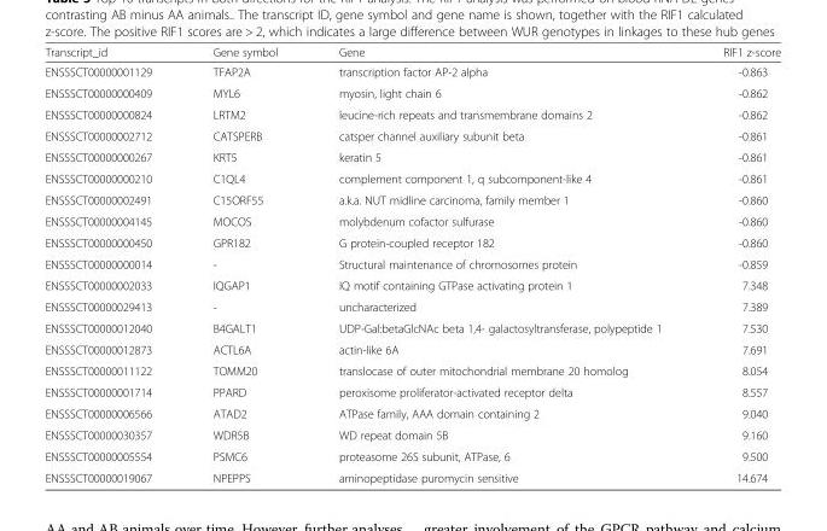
<table><thead><tr><td>Transcript_id</td><td>Gene symbol</td><td>Gene</td><td>RIF1 z-score</td></tr></thead><tbody><tr><td>ENSSSCT00000001129</td><td>TFAP2A</td><td>transcription factor AP-2 alpha</td><td>-0.863</td></tr><tr><td>ENSSSCT00000000409</td><td>MYL6</td><td>myosin, light chain 6</td><td>-0.862</td></tr><tr><td>ENSSSCT00000000824</td><td>LRTM2</td><td>leucine-rich repeats and transmembrane domains 2</td><td>-0.862</td></tr><tr><td>ENSSSCT00000002712</td><td>CATSPERB</td><td>catsper channel auxiliary subunit beta</td><td>-0.861</td></tr><tr><td>ENSSSCT00000000267</td><td>KRT5</td><td>keratin 5</td><td>-0.861</td></tr><tr><td>ENSSSCT00000000210</td><td>C1QL4</td><td>complement component 1, q subcomponent-like 4</td><td>-0.861</td></tr><tr><td>ENSSSCT00000002491</td><td>C15ORF55</td><td>a.k.a. NUT midline carcinoma, family member 1</td><td>-0.860</td></tr><tr><td>ENSSSCT00000004145</td><td>MOCOS</td><td>molybdenum cofactor sulfurase</td><td>-0.860</td></tr><tr><td>ENSSSCT00000000450</td><td>GPR182</td><td>G protein-coupled receptor 182</td><td>-0.860</td></tr><tr><td>ENSSSCT00000000014</td><td>-</td><td>Structural maintenance of chromosomes protein</td><td>-0.859</td></tr><tr><td>ENSSSCT00000002033</td><td>IQGAP1</td><td>IQ motif containing GTPase activating protein 1</td><td>7.348</td></tr><tr><td>ENSSSCT00000029413</td><td>-</td><td>uncharacterized</td><td>7.389</td></tr><tr><td>ENSSSCT00000012040</td><td>B4GALT1</td><td>UDP-Gal:betaGlcNAc beta 1,4- galactosyltransferase, polypeptide 1</td><td>7.530</td></tr><tr><td>ENSSSCT00000012873</td><td>ACTL6A</td><td>actin-like 6A</td><td>7.691</td></tr><tr><td>ENSSSCT00000011122</td><td>TOMM20</td><td>translocase of outer mitochondrial membrane 20 homolog</td><td>8.054</td></tr><tr><td>ENSSSCT00000001714</td><td>PPARD</td><td>peroxisome proliferator-activated receptor delta</td><td>8.557</td></tr><tr><td>ENSSSCT00000006566</td><td>ATAD2</td><td>ATPase family, AAA domain containing 2</td><td>9.040</td></tr><tr><td>ENSSSCT00000030357</td><td>WDR5B</td><td>WD repeat domain 5B</td><td>9.160</td></tr><tr><td>ENSSSCT00000005554</td><td>PSMC6</td><td>proteasome 26S subunit, ATPase, 6</td><td>9.500</td></tr><tr><td>ENSSSCT00000019067</td><td>NPEPPS</td><td>aminopeptidase puromycin sensitive</td><td>14.674</td></tr></tbody></table>